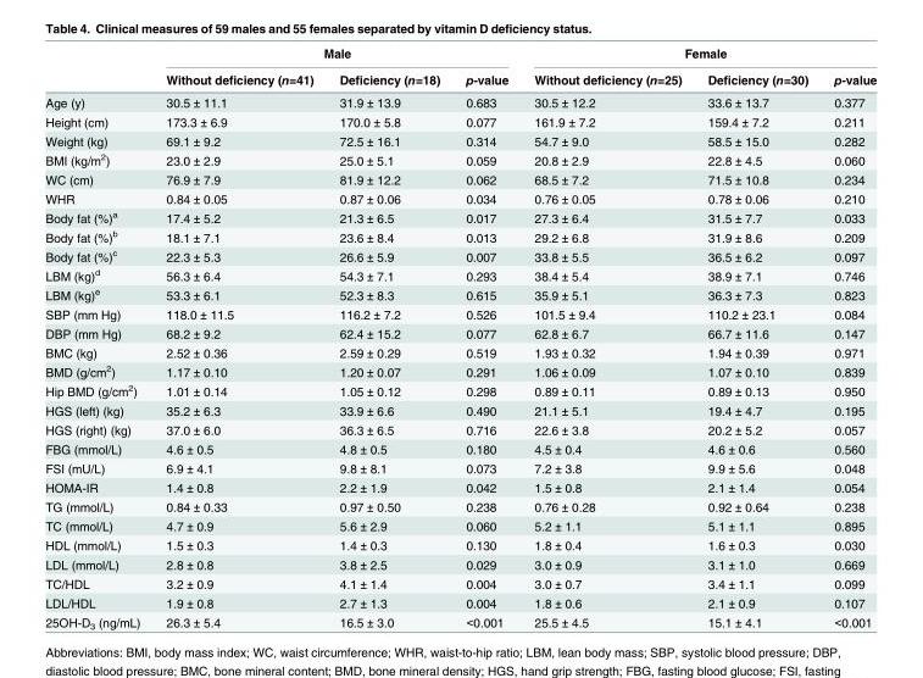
<table><thead><tr><td rowspan="2"></td><td colspan="3">Male</td><td colspan="3">Female</td></tr><tr><td>Without deficiency (n=41)</td><td>Deficiency (n=18)</td><td>p-value</td><td>Without deficiency (n=25)</td><td>Deficiency (n=30)</td><td>p-value</td></tr></thead><tbody><tr><td>Age (y)</td><td>30.5 ± 11.1</td><td>31.9 ± 13.9</td><td>0.683</td><td>30.5 ± 12.2</td><td>33.6 ± 13.7</td><td>0.377</td></tr><tr><td>Height (cm)</td><td>173.3 ± 6.9</td><td>170.0 ± 5.8</td><td>0.077</td><td>161.9 ± 7.2</td><td>159.4 ± 7.2</td><td>0.211</td></tr><tr><td>Weight (kg)</td><td>69.1 ± 9.2</td><td>72.5 ± 16.1</td><td>0.314</td><td>54.7 ± 9.0</td><td>58.5 ± 15.0</td><td>0.282</td></tr><tr><td>BMI (kg/m<sup>2</sup>)</td><td>23.0 ± 2.9</td><td>25.0 ± 5.1</td><td>0.059</td><td>20.8 ± 2.9</td><td>22.8 ± 4.5</td><td>0.060</td></tr><tr><td>WC (cm)</td><td>76.9 ± 7.9</td><td>81.9 ± 12.2</td><td>0.062</td><td>68.5 ± 7.2</td><td>71.5 ± 10.8</td><td>0.234</td></tr><tr><td>WHR</td><td>0.84 ± 0.05</td><td>0.87 ± 0.06</td><td>0.034</td><td>0.76 ± 0.05</td><td>0.78 ± 0.06</td><td>0.210</td></tr><tr><td>Body fat (%)<sup>a</sup></td><td>17.4 ± 5.2</td><td>21.3 ± 6.5</td><td>0.017</td><td>27.3 ± 6.4</td><td>31.5 ± 7.7</td><td>0.033</td></tr><tr><td>Body fat (%)<sup>b</sup></td><td>18.1 ± 7.1</td><td>23.6 ± 8.4</td><td>0.013</td><td>29.2 ± 6.8</td><td>31.9 ± 8.6</td><td>0.209</td></tr><tr><td>Body fat (%)<sup>c</sup></td><td>22.3 ± 5.3</td><td>26.6 ± 5.9</td><td>0.007</td><td>33.8 ± 5.5</td><td>36.5 ± 6.2</td><td>0.097</td></tr><tr><td>LBM (kg)<sup>d</sup></td><td>56.3 ± 6.4</td><td>54.3 ± 7.1</td><td>0.293</td><td>38.4 ± 5.4</td><td>38.9 ± 7.1</td><td>0.746</td></tr><tr><td>LBM (kg)<sup>e</sup></td><td>53.3 ± 6.1</td><td>52.3 ± 8.3</td><td>0.615</td><td>35.9 ± 5.1</td><td>36.3 ± 7.3</td><td>0.823</td></tr><tr><td>SBP (mm Hg)</td><td>118.0 ± 11.5</td><td>116.2 ± 7.2</td><td>0.526</td><td>101.5 ± 9.4</td><td>110.2 ± 23.1</td><td>0.084</td></tr><tr><td>DBP (mm Hg)</td><td>68.2 ± 9.2</td><td>62.4 ± 15.2</td><td>0.077</td><td>62.8 ± 6.7</td><td>66.7 ± 11.6</td><td>0.147</td></tr><tr><td>BMC (kg)</td><td>2.52 ± 0.36</td><td>2.59 ± 0.29</td><td>0.519</td><td>1.93 ± 0.32</td><td>1.94 ± 0.39</td><td>0.971</td></tr><tr><td>BMD (g/cm<sup>2</sup>)</td><td>1.17 ± 0.10</td><td>1.20 ± 0.07</td><td>0.291</td><td>1.06 ± 0.09</td><td>1.07 ± 0.10</td><td>0.839</td></tr><tr><td>Hip BMD (g/cm<sup>2</sup>)</td><td>1.01 ± 0.14</td><td>1.05 ± 0.12</td><td>0.298</td><td>0.89 ± 0.11</td><td>0.89 ± 0.13</td><td>0.950</td></tr><tr><td>HGS (left) (kg)</td><td>35.2 ± 6.3</td><td>33.9 ± 6.6</td><td>0.490</td><td>21.1 ± 5.1</td><td>19.4 ± 4.7</td><td>0.195</td></tr><tr><td>HGS (right) (kg)</td><td>37.0 ± 6.0</td><td>36.3 ± 6.5</td><td>0.716</td><td>22.6 ± 3.8</td><td>20.2 ± 5.2</td><td>0.057</td></tr><tr><td>FBG (mmol/L)</td><td>4.6 ± 0.5</td><td>4.8 ± 0.5</td><td>0.180</td><td>4.5 ± 0.4</td><td>4.6 ± 0.6</td><td>0.560</td></tr><tr><td>FSI (mU/L)</td><td>6.9 ± 4.1</td><td>9.8 ± 8.1</td><td>0.073</td><td>7.2 ± 3.8</td><td>9.9 ± 5.6</td><td>0.048</td></tr><tr><td>HOMA-IR</td><td>1.4 ± 0.8</td><td>2.2 ± 1.9</td><td>0.042</td><td>1.5 ± 0.8</td><td>2.1 ± 1.4</td><td>0.054</td></tr><tr><td>TG (mmol/L)</td><td>0.84 ± 0.33</td><td>0.97 ± 0.50</td><td>0.238</td><td>0.76 ± 0.28</td><td>0.92 ± 0.64</td><td>0.238</td></tr><tr><td>TC (mmol/L)</td><td>4.7 ± 0.9</td><td>5.6 ± 2.9</td><td>0.060</td><td>5.2 ± 1.1</td><td>5.1 ± 1.1</td><td>0.895</td></tr><tr><td>HDL (mmol/L)</td><td>1.5 ± 0.3</td><td>1.4 ± 0.3</td><td>0.130</td><td>1.8 ± 0.4</td><td>1.6 ± 0.3</td><td>0.030</td></tr><tr><td>LDL (mmol/L)</td><td>2.8 ± 0.8</td><td>3.8 ± 2.5</td><td>0.029</td><td>3.0 ± 0.9</td><td>3.1 ± 1.0</td><td>0.669</td></tr><tr><td>TC/HDL</td><td>3.2 ± 0.9</td><td>4.1 ± 1.4</td><td>0.004</td><td>3.0 ± 0.7</td><td>3.4 ± 1.1</td><td>0.099</td></tr><tr><td>LDL/HDL</td><td>1.9 ± 0.8</td><td>2.7 ± 1.3</td><td>0.004</td><td>1.8 ± 0.6</td><td>2.1 ± 0.9</td><td>0.107</td></tr><tr><td>25OH-D<sub>3</sub> (ng/mL)</td><td>26.3 ± 5.4</td><td>16.5 ± 3.0</td><td>&lt;0.001</td><td>25.5 ± 4.5</td><td>15.1 ± 4.1</td><td>&lt;0.001</td></tr></tbody></table>